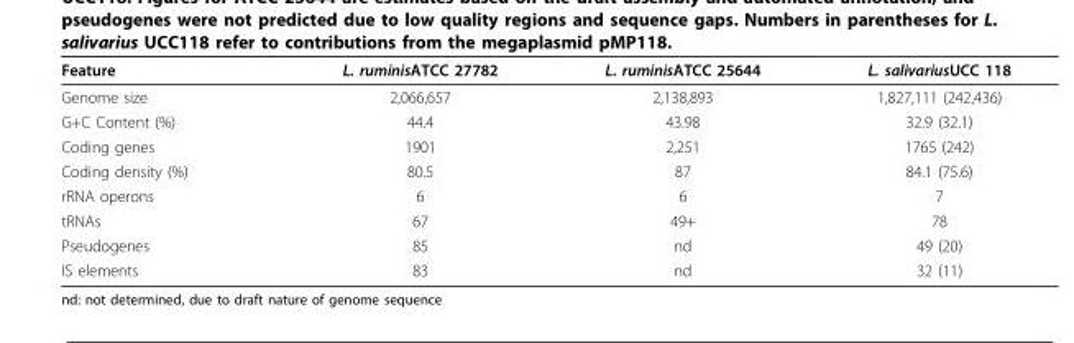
<table><thead><tr><td>Feature</td><td>L. ruminisATCC 27782</td><td>L. ruminisATCC 25644</td><td>L. salivariusUCC 118</td></tr></thead><tbody><tr><td>Genome size</td><td>2,066,657</td><td>2,138,893</td><td>1,827,111 (242,436)</td></tr><tr><td>G+C Content (%)</td><td>44.4</td><td>43.98</td><td>32.9 (32.1)</td></tr><tr><td>Coding genes</td><td>1901</td><td>2,251</td><td>1765 (242)</td></tr><tr><td>Coding density (%)</td><td>80.5</td><td>87</td><td>84.1 (75.6)</td></tr><tr><td>rRNA operons</td><td>6</td><td>6</td><td>7</td></tr><tr><td>tRNAs</td><td>67</td><td>49+</td><td>78</td></tr><tr><td>Pseudogenes</td><td>85</td><td>nd</td><td>49 (20)</td></tr><tr><td>IS elements</td><td>83</td><td>nd</td><td>32 (11)</td></tr></tbody></table>